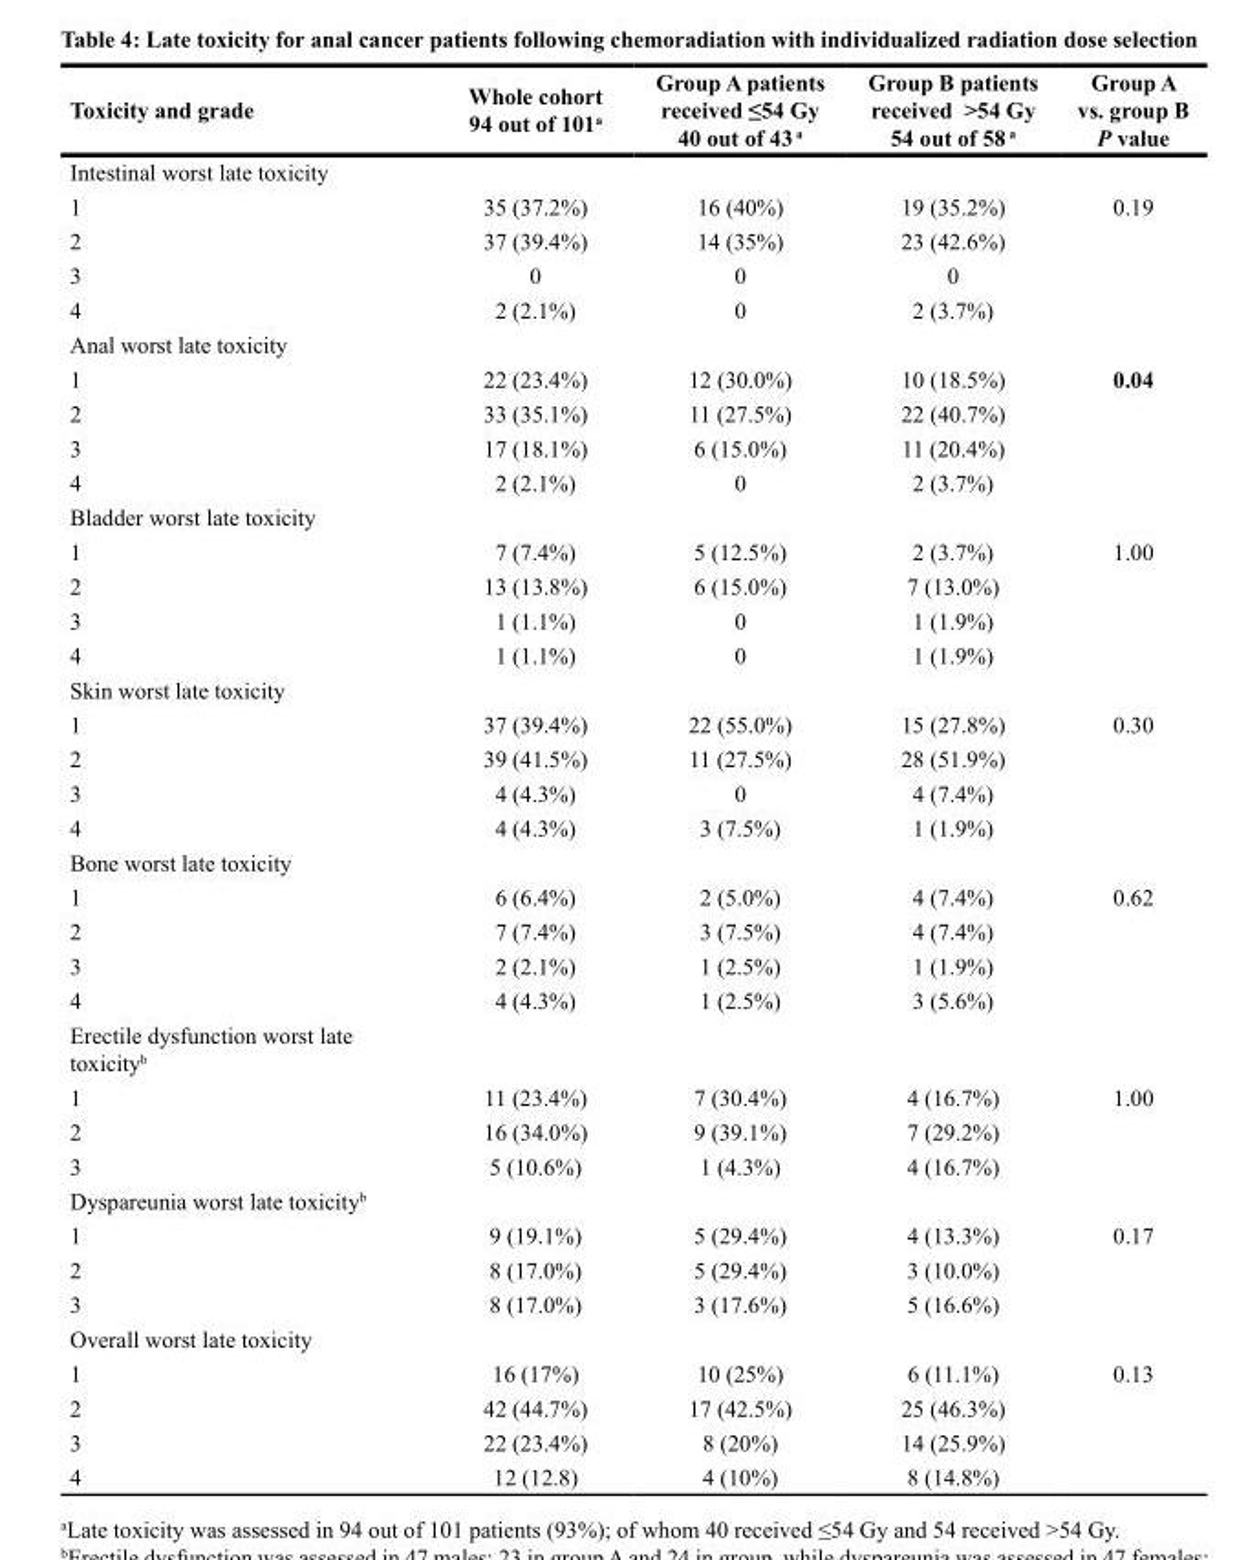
<table><thead><tr><td>Toxicity and grade</td><td>Whole cohort 94 out of 101<sup>a</sup></td><td>Group A patients received ≤54 Gy 40 out of 43 <sup>a</sup></td><td>Group B patients received &gt;54 Gy 54 out of 58 <sup>a</sup></td><td>Group A vs. group B P value</td></tr></thead><tbody><tr><td colspan="5">Intestinal worst late toxicity</td></tr><tr><td>1</td><td>35 (37.2%)</td><td>16 (40%)</td><td>19 (35.2%)</td><td>0.19</td></tr><tr><td>2</td><td>37 (39.4%)</td><td>14 (35%)</td><td>23 (42.6%)</td><td></td></tr><tr><td>3</td><td>0</td><td>0</td><td>0</td><td></td></tr><tr><td>4</td><td>2 (2.1%)</td><td>0</td><td>2 (3.7%)</td><td></td></tr><tr><td colspan="5">Anal worst late toxicity</td></tr><tr><td>1</td><td>22 (23.4%)</td><td>12 (30.0%)</td><td>10 (18.5%)</td><td>0.04</td></tr><tr><td>2</td><td>33 (35.1%)</td><td>11 (27.5%)</td><td>22 (40.7%)</td><td></td></tr><tr><td>3</td><td>17 (18.1%)</td><td>6 (15.0%)</td><td>11 (20.4%)</td><td></td></tr><tr><td>4</td><td>2 (2.1%)</td><td>0</td><td>2 (3.7%)</td><td></td></tr><tr><td colspan="5">Bladder worst late toxicity</td></tr><tr><td>1</td><td>7 (7.4%)</td><td>5 (12.5%)</td><td>2 (3.7%)</td><td>1.00</td></tr><tr><td>2</td><td>13 (13.8%)</td><td>6 (15.0%)</td><td>7 (13.0%)</td><td></td></tr><tr><td>3</td><td>1 (1.1%)</td><td>0</td><td>1 (1.9%)</td><td></td></tr><tr><td>4</td><td>1 (1.1%)</td><td>0</td><td>1 (1.9%)</td><td></td></tr><tr><td colspan="5">Skin worst late toxicity</td></tr><tr><td>1</td><td>37 (39.4%)</td><td>22 (55.0%)</td><td>15 (27.8%)</td><td>0.30</td></tr><tr><td>2</td><td>39 (41.5%)</td><td>11 (27.5%)</td><td>28 (51.9%)</td><td></td></tr><tr><td>3</td><td>4 (4.3%)</td><td>0</td><td>4 (7.4%)</td><td></td></tr><tr><td>4</td><td>4 (4.3%)</td><td>3 (7.5%)</td><td>1 (1.9%)</td><td></td></tr><tr><td colspan="5">Bone worst late toxicity</td></tr><tr><td>1</td><td>6 (6.4%)</td><td>2 (5.0%)</td><td>4 (7.4%)</td><td>0.62</td></tr><tr><td>2</td><td>7 (7.4%)</td><td>3 (7.5%)</td><td>4 (7.4%)</td><td></td></tr><tr><td>3</td><td>2 (2.1%)</td><td>1 (2.5%)</td><td>1 (1.9%)</td><td></td></tr><tr><td>4</td><td>4 (4.3%)</td><td>1 (2.5%)</td><td>3 (5.6%)</td><td></td></tr><tr><td colspan="5">Erectile dysfunction worst late toxicity<sup>b</sup></td></tr><tr><td>1</td><td>11 (23.4%)</td><td>7 (30.4%)</td><td>4 (16.7%)</td><td>1.00</td></tr><tr><td>2</td><td>16 (34.0%)</td><td>9 (39.1%)</td><td>7 (29.2%)</td><td></td></tr><tr><td>3</td><td>5 (10.6%)</td><td>1 (4.3%)</td><td>4 (16.7%)</td><td></td></tr><tr><td colspan="5">Dyspareunia worst late toxicity<sup>b</sup></td></tr><tr><td>1</td><td>9 (19.1%)</td><td>5 (29.4%)</td><td>4 (13.3%)</td><td>0.17</td></tr><tr><td>2</td><td>8 (17.0%)</td><td>5 (29.4%)</td><td>3 (10.0%)</td><td></td></tr><tr><td>3</td><td>8 (17.0%)</td><td>3 (17.6%)</td><td>5 (16.6%)</td><td></td></tr><tr><td colspan="5">Overall worst late toxicity</td></tr><tr><td>1</td><td>16 (17%)</td><td>10 (25%)</td><td>6 (11.1%)</td><td>0.13</td></tr><tr><td>2</td><td>42 (44.7%)</td><td>17 (42.5%)</td><td>25 (46.3%)</td><td></td></tr><tr><td>3</td><td>22 (23.4%)</td><td>8 (20%)</td><td>14 (25.9%)</td><td></td></tr><tr><td>4</td><td>12 (12.8)</td><td>4 (10%)</td><td>8 (14.8%)</td><td></td></tr></tbody></table>